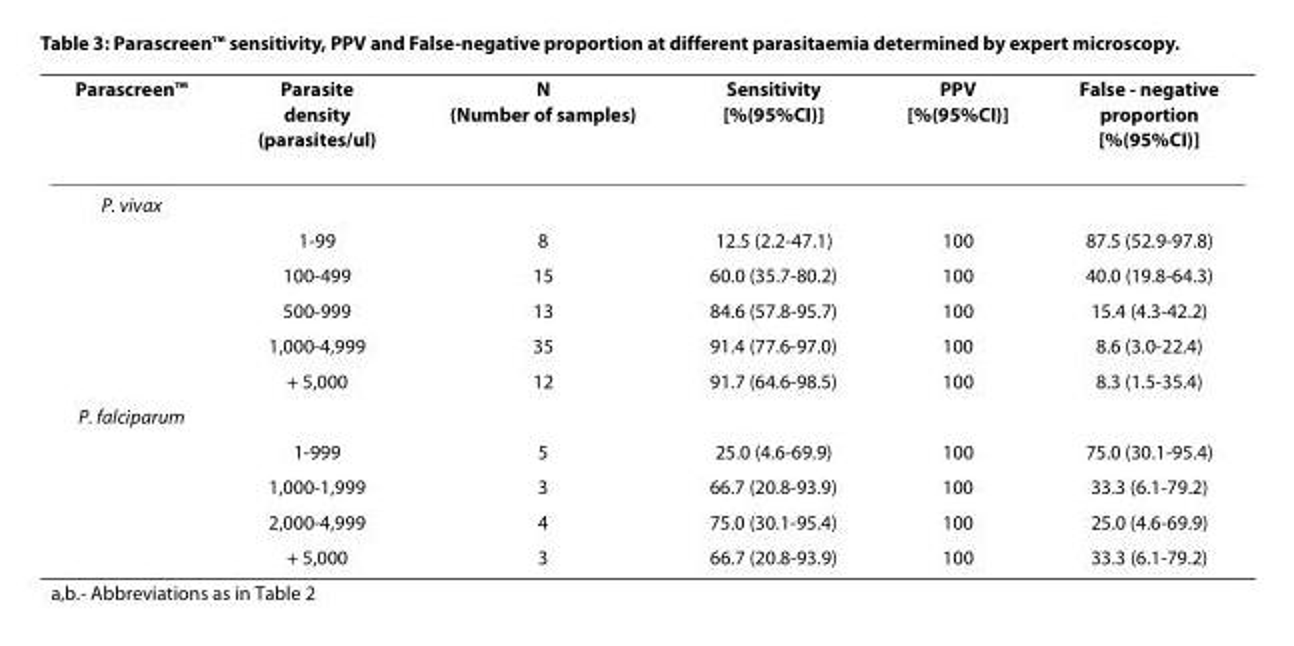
<table><thead><tr><td>Parascreen™</td><td>Parasite density (parasites/ul)</td><td>N (Number of samples)</td><td>Sensitivity [%(95%CI)]</td><td>PPV [%(95%CI)]</td><td>False - negative proportion [%(95%CI)]</td></tr></thead><tbody><tr><td colspan="6">P. vivax</td></tr><tr><td></td><td>1-99</td><td>8</td><td>12.5 (2.2-47.1)</td><td>100</td><td>87.5 (52.9-97.8)</td></tr><tr><td></td><td>100-499</td><td>15</td><td>60.0 (35.7-80.2)</td><td>100</td><td>40.0 (19.8-64.3)</td></tr><tr><td></td><td>500-999</td><td>13</td><td>84.6 (57.8-95.7)</td><td>100</td><td>15.4 (4.3-42.2)</td></tr><tr><td></td><td>1,000-4,999</td><td>35</td><td>91.4 (77.6-97.0)</td><td>100</td><td>8.6 (3.0-22.4)</td></tr><tr><td></td><td>+ 5,000</td><td>12</td><td>91.7 (64.6-98.5)</td><td>100</td><td>8.3 (1.5-35.4)</td></tr><tr><td colspan="6">P. falciparum</td></tr><tr><td></td><td>1-999</td><td>5</td><td>25.0 (4.6-69.9)</td><td>100</td><td>75.0 (30.1-95.4)</td></tr><tr><td></td><td>1,000-1,999</td><td>3</td><td>66.7 (20.8-93.9)</td><td>100</td><td>33.3 (6.1-79.2)</td></tr><tr><td></td><td>2,000-4,999</td><td>4</td><td>75.0 (30.1-95.4)</td><td>100</td><td>25.0 (4.6-69.9)</td></tr><tr><td></td><td>+ 5,000</td><td>3</td><td>66.7 (20.8-93.9)</td><td>100</td><td>33.3 (6.1-79.2)</td></tr></tbody></table>